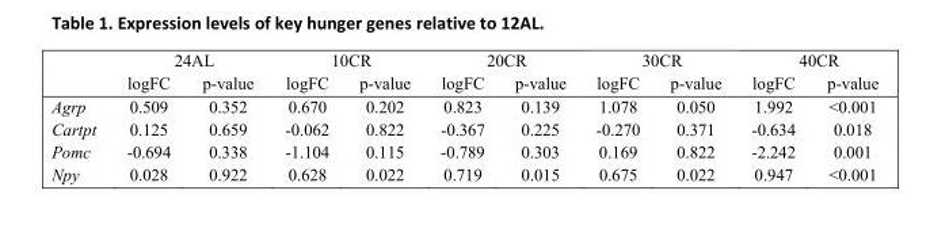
<table><thead><tr><td rowspan="2"></td><td colspan="2">24AL</td><td colspan="2">10CR</td><td colspan="2">20CR</td><td colspan="2">30CR</td><td colspan="2">40CR</td></tr><tr><td>logFC</td><td>p-value</td><td>logFC</td><td>p-value</td><td>logFC</td><td>p-value</td><td>logFC</td><td>p-value</td><td>logFC</td><td>p-value</td></tr></thead><tbody><tr><td>Agrp</td><td>0.509</td><td>0.352</td><td>0.670</td><td>0.202</td><td>0.823</td><td>0.139</td><td>1.078</td><td>0.050</td><td>1.992</td><td>&lt;0.001</td></tr><tr><td>Cartpt</td><td>0.125</td><td>0.659</td><td>-0.062</td><td>0.822</td><td>-0.367</td><td>0.225</td><td>-0.270</td><td>0.371</td><td>-0.634</td><td>0.018</td></tr><tr><td>Pomc</td><td>-0.694</td><td>0.338</td><td>-1.104</td><td>0.115</td><td>-0.789</td><td>0.303</td><td>0.169</td><td>0.822</td><td>-2.242</td><td>0.001</td></tr><tr><td>Npy</td><td>0.028</td><td>0.922</td><td>0.628</td><td>0.022</td><td>0.719</td><td>0.015</td><td>0.675</td><td>0.022</td><td>0.947</td><td>&lt;0.001</td></tr></tbody></table>